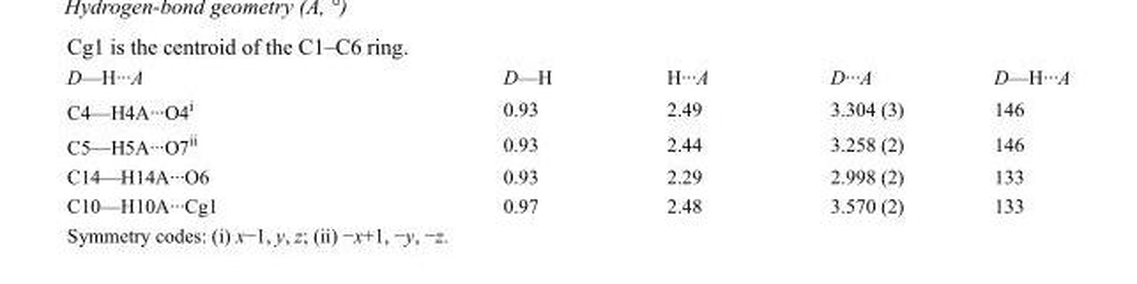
<table><tbody><tr><td>D—H···A</td><td>D—H</td><td>H···A</td><td>D···A</td><td>D—H···A</td></tr><tr><td>C4—H4A···O4<sup>i</sup></td><td>0.93</td><td>2.49</td><td>3.304 (3)</td><td>146</td></tr><tr><td>C5—H5A···O7<sup>ii</sup></td><td>0.93</td><td>2.44</td><td>3.258 (2)</td><td>146</td></tr><tr><td>C14—H14A···O6</td><td>0.93</td><td>2.29</td><td>2.998 (2)</td><td>133</td></tr><tr><td>C10—H10A···Cg1</td><td>0.97</td><td>2.48</td><td>3.570 (2)</td><td>133</td></tr></tbody></table>